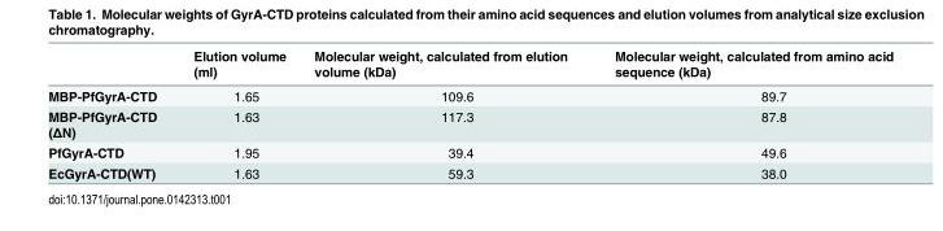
<table><thead><tr><td></td><td>Elution volume (ml)</td><td>Molecular weight, calculated from elution volume (kDa)</td><td>Molecular weight, calculated from amino acid sequence (kDa)</td></tr></thead><tbody><tr><td>MBP-PfGyrA-CTD</td><td>1.65</td><td>109.6</td><td>89.7</td></tr><tr><td>MBP-PfGyrA-CTD (ΔN)</td><td>1.63</td><td>117.3</td><td>87.8</td></tr><tr><td>PfGyrA-CTD</td><td>1.95</td><td>39.4</td><td>49.6</td></tr><tr><td>EcGyrA-CTD(WT)</td><td>1.63</td><td>59.3</td><td>38.0</td></tr></tbody></table>